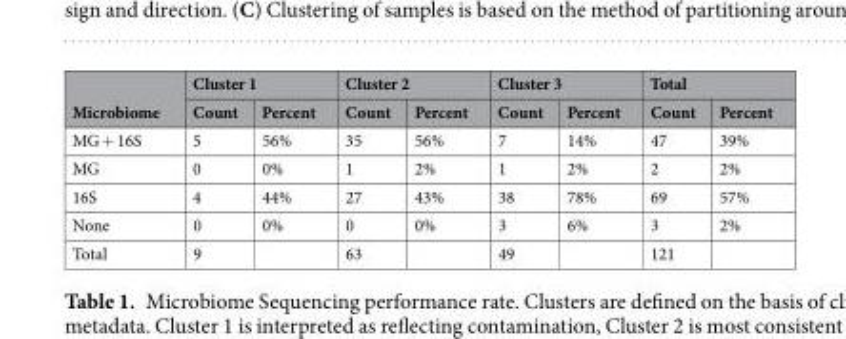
<table><thead><tr><td rowspan="2">Microbiome</td><td colspan="2">Cluster 1</td><td colspan="2">Cluster 2</td><td colspan="2">Cluster 3</td><td colspan="2">Total</td></tr><tr><td>Count</td><td>Percent</td><td>Count</td><td>Percent</td><td>Count</td><td>Percent</td><td>Count</td><td>Percent</td></tr></thead><tbody><tr><td>MG + 16S</td><td>5</td><td>56%</td><td>35</td><td>56%</td><td>7</td><td>14%</td><td>47</td><td>39%</td></tr><tr><td>MG</td><td>0</td><td>0%</td><td>1</td><td>2%</td><td>1</td><td>2%</td><td>2</td><td>2%</td></tr><tr><td>16S</td><td>4</td><td>44%</td><td>27</td><td>43%</td><td>38</td><td>78%</td><td>69</td><td>57%</td></tr><tr><td>None</td><td>0</td><td>0%</td><td>0</td><td>0%</td><td>3</td><td>6%</td><td>3</td><td>2%</td></tr><tr><td>Total</td><td>9</td><td></td><td>63</td><td></td><td>49</td><td></td><td>121</td><td></td></tr></tbody></table>